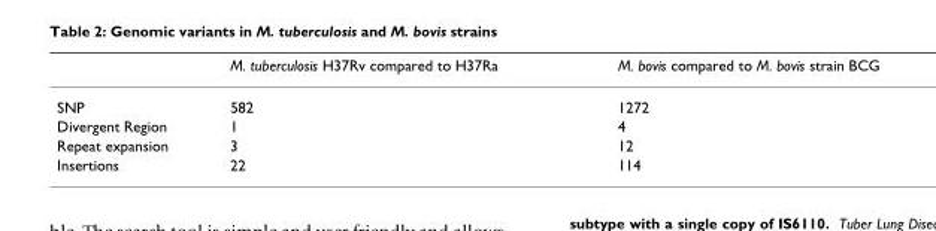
<table><thead><tr><td></td><td>M. tuberculosis H37Rv compared to H37Ra</td><td>M. bovis compared to M. bovis strain BCG</td></tr></thead><tbody><tr><td>SNP</td><td>582</td><td>1272</td></tr><tr><td>Divergent Region</td><td>1</td><td>4</td></tr><tr><td>Repeat expansion</td><td>3</td><td>12</td></tr><tr><td>Insertions</td><td>22</td><td>114</td></tr></tbody></table>